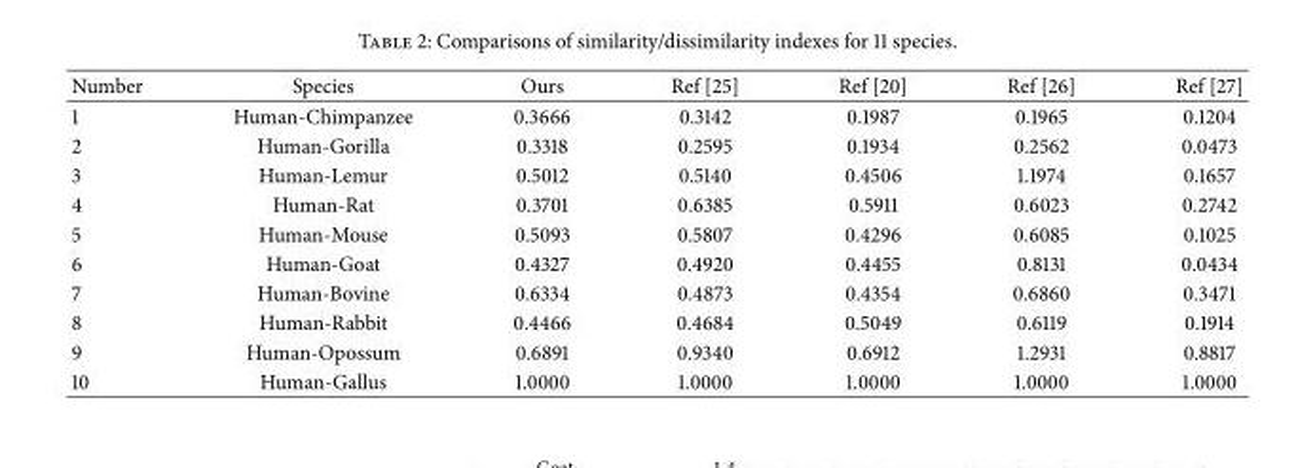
<table><thead><tr><td>Number</td><td>Species</td><td>Ours</td><td>Ref [25]</td><td>Ref [20]</td><td>Ref [26]</td><td>Ref [27]</td></tr></thead><tbody><tr><td>1</td><td>Human-Chimpanzee</td><td>0.3666</td><td>0.3142</td><td>0.1987</td><td>0.1965</td><td>0.1204</td></tr><tr><td>2</td><td>Human-Gorilla</td><td>0.3318</td><td>0.2595</td><td>0.1934</td><td>0.2562</td><td>0.0473</td></tr><tr><td>3</td><td>Human-Lemur</td><td>0.5012</td><td>0.5140</td><td>0.4506</td><td>1.1974</td><td>0.1657</td></tr><tr><td>4</td><td>Human-Rat</td><td>0.3701</td><td>0.6385</td><td>0.5911</td><td>0.6023</td><td>0.2742</td></tr><tr><td>5</td><td>Human-Mouse</td><td>0.5093</td><td>0.5807</td><td>0.4296</td><td>0.6085</td><td>0.1025</td></tr><tr><td>6</td><td>Human-Goat</td><td>0.4327</td><td>0.4920</td><td>0.4455</td><td>0.8131</td><td>0.0434</td></tr><tr><td>7</td><td>Human-Bovine</td><td>0.6334</td><td>0.4873</td><td>0.4354</td><td>0.6860</td><td>0.3471</td></tr><tr><td>8</td><td>Human-Rabbit</td><td>0.4466</td><td>0.4684</td><td>0.5049</td><td>0.6119</td><td>0.1914</td></tr><tr><td>9</td><td>Human-Opossum</td><td>0.6891</td><td>0.9340</td><td>0.6912</td><td>1.2931</td><td>0.8817</td></tr><tr><td>10</td><td>Human-Gallus</td><td>1.0000</td><td>1.0000</td><td>1.0000</td><td>1.0000</td><td>1.0000</td></tr></tbody></table>